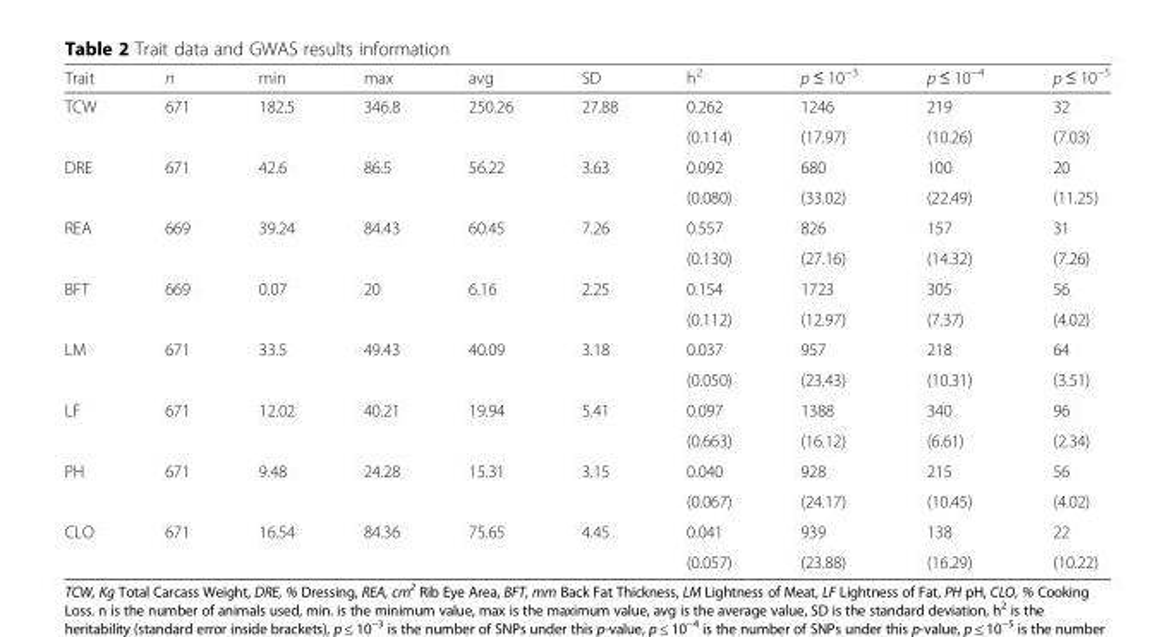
<table><thead><tr><td>Trait</td><td>n</td><td>min</td><td>max</td><td>avg</td><td>SD</td><td>h<sup>2</sup></td><td>p ≤ 10<sup>−3</sup></td><td>p ≤ 10<sup>−4</sup></td><td>p ≤ 10<sup>−5</sup></td></tr></thead><tbody><tr><td rowspan="2">TCW</td><td>671</td><td>182.5</td><td>346.8</td><td>250.26</td><td>27.88</td><td>0.262</td><td>1246</td><td>219</td><td>32</td></tr><tr><td></td><td></td><td></td><td></td><td></td><td>(0.114)</td><td>(17.97)</td><td>(10.26)</td><td>(7.03)</td></tr><tr><td rowspan="2">DRE</td><td>671</td><td>42.6</td><td>86.5</td><td>56.22</td><td>3.63</td><td>0.092</td><td>680</td><td>100</td><td>20</td></tr><tr><td></td><td></td><td></td><td></td><td></td><td>(0.080)</td><td>(33.02)</td><td>(22.49)</td><td>(11.25)</td></tr><tr><td rowspan="2">REA</td><td>669</td><td>39.24</td><td>84.43</td><td>60.45</td><td>7.26</td><td>0.557</td><td>826</td><td>157</td><td>31</td></tr><tr><td></td><td></td><td></td><td></td><td></td><td>(0.130)</td><td>(27.16)</td><td>(14.32)</td><td>(7.26)</td></tr><tr><td rowspan="2">BFT</td><td>669</td><td>0.07</td><td>20</td><td>6.16</td><td>2.25</td><td>0.154</td><td>1723</td><td>305</td><td>56</td></tr><tr><td></td><td></td><td></td><td></td><td></td><td>(0.112)</td><td>(12.97)</td><td>(7.37)</td><td>(4.02)</td></tr><tr><td rowspan="2">LM</td><td>671</td><td>33.5</td><td>49.43</td><td>40.09</td><td>3.18</td><td>0.037</td><td>957</td><td>218</td><td>64</td></tr><tr><td></td><td></td><td></td><td></td><td></td><td>(0.050)</td><td>(23.43)</td><td>(10.31)</td><td>(3.51)</td></tr><tr><td rowspan="2">LF</td><td>671</td><td>12.02</td><td>40.21</td><td>19.94</td><td>5.41</td><td>0.097</td><td>1388</td><td>340</td><td>96</td></tr><tr><td></td><td></td><td></td><td></td><td></td><td>(0.663)</td><td>(16.12)</td><td>(6.61)</td><td>(2.34)</td></tr><tr><td rowspan="2">PH</td><td>671</td><td>9.48</td><td>24.28</td><td>15.31</td><td>3.15</td><td>0.040</td><td>928</td><td>215</td><td>56</td></tr><tr><td></td><td></td><td></td><td></td><td></td><td>(0.067)</td><td>(24.17)</td><td>(10.45)</td><td>(4.02)</td></tr><tr><td rowspan="2">CLO</td><td>671</td><td>16.54</td><td>84.36</td><td>75.65</td><td>4.45</td><td>0.041</td><td>939</td><td>138</td><td>22</td></tr><tr><td></td><td></td><td></td><td></td><td></td><td>(0.057)</td><td>(23.88)</td><td>(16.29)</td><td>(10.22)</td></tr></tbody></table>